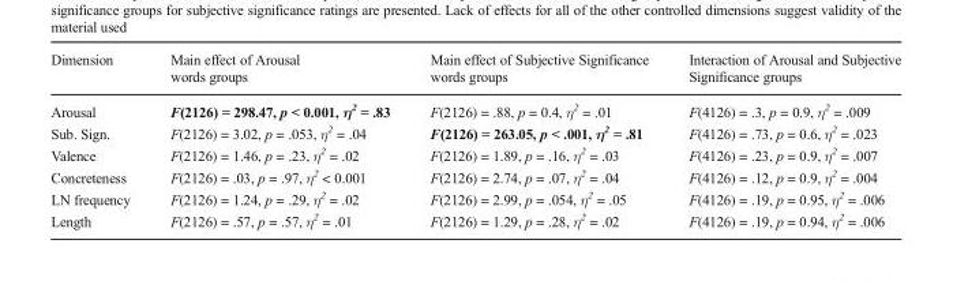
<table><thead><tr><td>Dimension</td><td>Main effect of Arousal words groups</td><td>Main effect of Subjective Significance words groups</td><td>Interaction of Arousal and Subjective Significance groups</td></tr></thead><tbody><tr><td>Arousal</td><td>F(2126) = 298.47, p &lt; 0.001, η<sup>2</sup> = .83</td><td>F(2126) = .88, p = 0.4, η<sup>2</sup> = .01</td><td>F(4126) = .3, p = 0.9, η<sup>2</sup> = .009</td></tr><tr><td>Sub. Sign.</td><td>F(2126) = 3.02, p = .053, η<sup>2</sup> = .04</td><td>F(2126) = 263.05, p &lt; .001, η<sup>2</sup> = .81</td><td>F(4126) = .73, p = 0.6, η<sup>2</sup> = .023</td></tr><tr><td>Valence</td><td>F(2126) = 1.46, p = .23, η<sup>2</sup> = .02</td><td>F(2126) = 1.89, p = .16, η<sup>2</sup> = .03</td><td>F(4126) = .23, p = 0.9, η<sup>2</sup> = .007</td></tr><tr><td>Concreteness</td><td>F(2126) = .03, p = .97, η<sup>2</sup> &lt; 0.001</td><td>F(2126) = 2.74, p = .07, η<sup>2</sup> = .04</td><td>F(4126) = .12, p = 0.9, η<sup>2</sup> = .004</td></tr><tr><td>LN frequency</td><td>F(2126) = 1.24, p = .29, η<sup>2</sup> = .02</td><td>F(2126) = 2.99, p = .054, η<sup>2</sup> = .05</td><td>F(4126) = .19, p = 0.95, η<sup>2</sup> = .006</td></tr><tr><td>Length</td><td>F(2126) = .57, p = .57, η<sup>2</sup> = .01</td><td>F(2126) = 1.29, p = .28, η<sup>2</sup> = .02</td><td>F(4126) = .19, p = 0.94, η<sup>2</sup> = .006</td></tr></tbody></table>